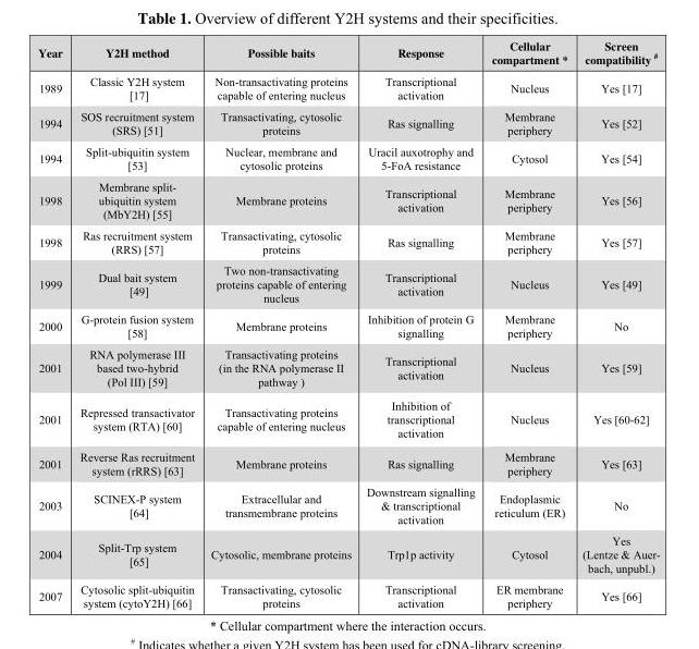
<table><thead><tr><td>Year</td><td>Y2H method</td><td>Possible baits</td><td>Response</td><td>Cellular compartment *</td><td>Screen compatibility #</td></tr></thead><tbody><tr><td>1989</td><td>Classic Y2H system [17]</td><td>Non-transactivating proteins capable of entering nucleus</td><td>Transcriptional activation</td><td>Nucleus</td><td>Yes [17]</td></tr><tr><td>1994</td><td>SOS recruitment system (SRS) [51]</td><td>Transactivating, cytosolic proteins</td><td>Ras signalling</td><td>Membrane periphery</td><td>Yes [52]</td></tr><tr><td>1994</td><td>Split-ubiquitin system [53]</td><td>Nuclear, membrane and cytosolic proteins</td><td>Uracil auxotrophy and 5-FoA resistance</td><td>Cytosol</td><td>Yes [54]</td></tr><tr><td>1998</td><td>Membrane split- ubiquitin system (MbY2H) [55]</td><td>Membrane proteins</td><td>Transcriptional activation</td><td>Membrane periphery</td><td>Yes [56]</td></tr><tr><td>1998</td><td>Ras recruitment system (RRS) [57]</td><td>Transactivating, cytosolic proteins</td><td>Ras signalling</td><td>Membrane periphery</td><td>Yes [57]</td></tr><tr><td>1999</td><td>Dual bait system [49]</td><td>Two non-transactivating proteins capable of entering nucleus</td><td>Transcriptional activation</td><td>Nucleus</td><td>Yes [49]</td></tr><tr><td>2000</td><td>G-protein fusion system [58]</td><td>Membrane proteins</td><td>Inhibition of protein G signalling</td><td>Membrane periphery</td><td>No</td></tr><tr><td>2001</td><td>RNA polymerase III based two-hybrid (Pol III) [59]</td><td>Transactivating proteins (in the RNA polymerase II pathway )</td><td>Transcriptional activation</td><td>Nucleus</td><td>Yes [59]</td></tr><tr><td>2001</td><td>Repressed transactivator system (RTA) [60]</td><td>Transactivating proteins capable of entering nucleus</td><td>Inhibition of transcriptional activation</td><td>Nucleus</td><td>Yes [60-62]</td></tr><tr><td>2001</td><td>Reverse Ras recruitment system (rRRS) [63]</td><td>Membrane proteins</td><td>Ras signalling</td><td>Membrane periphery</td><td>Yes [63]</td></tr><tr><td>2003</td><td>SCINEX-P system [64]</td><td>Extracellular and transmembrane proteins</td><td>Downstream signalling &amp; transcriptional activation</td><td>Endoplasmic reticulum (ER)</td><td>No</td></tr><tr><td>2004</td><td>Split-Trp system [65]</td><td>Cytosolic, membrane proteins</td><td>Trp1p activity</td><td>Cytosol</td><td>Yes (Lentze &amp; Auer- bach, unpubl.)</td></tr><tr><td>2007</td><td>Cytosolic split-ubiquitin system (cytoY2H) [66]</td><td>Transactivating, cytosolic proteins</td><td>Transcriptional activation</td><td>ER membrane periphery</td><td>Yes [66]</td></tr></tbody></table>